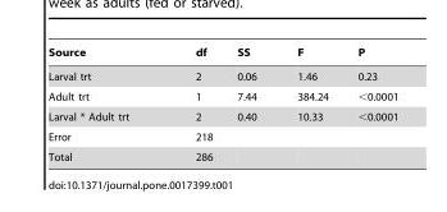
<table><thead><tr><td>Source</td><td>df</td><td>SS</td><td>F</td><td>P</td></tr></thead><tbody><tr><td>Larval trt</td><td>2</td><td>0.06</td><td>1.46</td><td>0.23</td></tr><tr><td>Adult trt</td><td>1</td><td>7.44</td><td>384.24</td><td>&lt;0.0001</td></tr><tr><td>Larval * Adult trt</td><td>2</td><td>0.40</td><td>10.33</td><td>&lt;0.0001</td></tr><tr><td>Error</td><td>218</td><td></td><td></td><td></td></tr><tr><td>Total</td><td>286</td><td></td><td></td><td></td></tr></tbody></table>